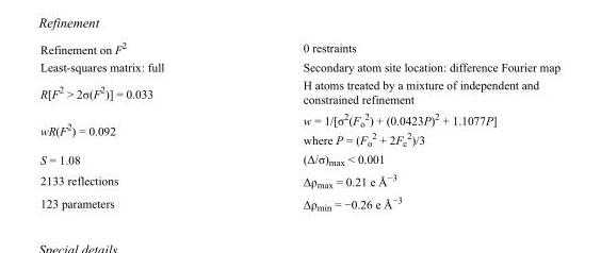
<table><tbody><tr><td>Refinement on F<sup>2</sup></td><td>0 restraints</td></tr><tr><td>Least-squares matrix: full</td><td>Secondary atom site location: difference Fourier map</td></tr><tr><td>R[F<sup>2</sup> &gt; 2σ(F<sup>2</sup>)] = 0.033</td><td>H atoms treated by a mixture of independent and constrained refinement</td></tr><tr><td>wR(F<sup>2</sup>) = 0.092</td><td>w = 1/[σ<sup>2</sup>(F<sub>o</sub> <sup>2</sup>) + (0.0423P)<sup>2</sup> + 1.1077P] where P = (F<sub>o</sub> <sup>2</sup> + 2F<sub>c</sub> <sup>2</sup>)/3</td></tr><tr><td>S = 1.08</td><td>(Δ/σ)<sub>max</sub> &lt; 0.001</td></tr><tr><td>2133 reflections</td><td>Δρ<sub>max</sub> = 0.21 e Å<sup>−3</sup></td></tr><tr><td>123 parameters</td><td>Δρ<sub>min</sub> = −0.26 e Å<sup>−3</sup></td></tr></tbody></table>